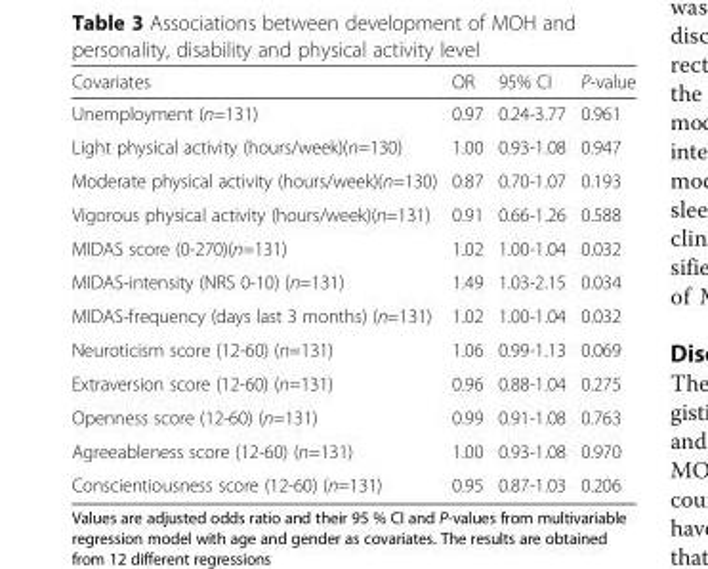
<table><thead><tr><td>Covariates</td><td>OR</td><td>95% CI</td><td>P-value</td></tr></thead><tbody><tr><td>Unemployment (n=131)</td><td>0.97</td><td>0.24-3.77</td><td>0.961</td></tr><tr><td>Light physical activity (hours/week)(n=130)</td><td>1.00</td><td>0.93-1.08</td><td>0.947</td></tr><tr><td>Moderate physical activity (hours/week)(n=130)</td><td>0.87</td><td>0.70-1.07</td><td>0.193</td></tr><tr><td>Vigorous physical activity (hours/week)(n=131)</td><td>0.91</td><td>0.66-1.26</td><td>0.588</td></tr><tr><td>MIDAS score (0-270)(n=131)</td><td>1.02</td><td>1.00-1.04</td><td>0.032</td></tr><tr><td>MIDAS-intensity (NRS 0-10) (n=131)</td><td>1.49</td><td>1.03-2.15</td><td>0.034</td></tr><tr><td>MIDAS-frequency (days last 3 months) (n=131)</td><td>1.02</td><td>1.00-1.04</td><td>0.032</td></tr><tr><td>Neuroticism score (12-60) (n=131)</td><td>1.06</td><td>0.99-1.13</td><td>0.069</td></tr><tr><td>Extraversion score (12-60) (n=131)</td><td>0.96</td><td>0.88-1.04</td><td>0.275</td></tr><tr><td>Openness score (12-60) (n=131)</td><td>0.99</td><td>0.91-1.08</td><td>0.763</td></tr><tr><td>Agreeableness score (12-60) (n=131)</td><td>1.00</td><td>0.93-1.08</td><td>0.970</td></tr><tr><td>Conscientiousness score (12-60) (n=131)</td><td>0.95</td><td>0.87-1.03</td><td>0.206</td></tr></tbody></table>